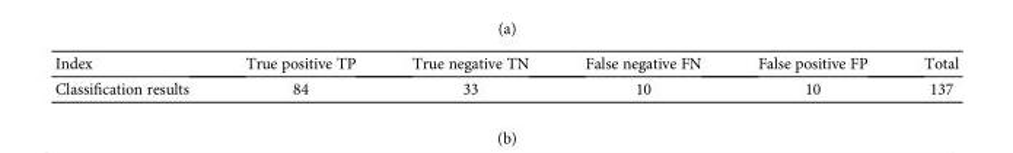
<table><thead><tr><td>Index</td><td>True positive TP</td><td>True negative TN</td><td>False negative FN</td><td>False positive FP</td><td>Total</td></tr></thead><tbody><tr><td>Classification results</td><td>84</td><td>33</td><td>10</td><td>10</td><td>137</td></tr></tbody></table>